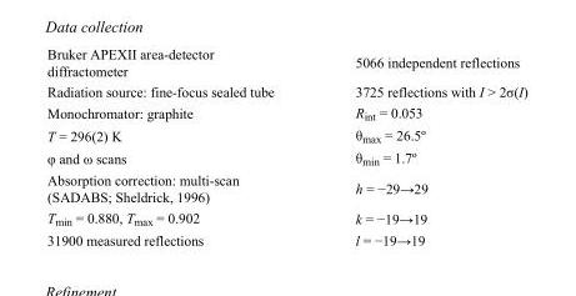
<table><tbody><tr><td>Bruker APEXII area-detector diffractometer</td><td>5066 independent reflections</td></tr><tr><td>Radiation source: fine-focus sealed tube</td><td>3725 reflections with I &gt; 2σ(I)</td></tr><tr><td>Monochromator: graphite</td><td>R<sub>int</sub> = 0.053</td></tr><tr><td>T = 296(2) K</td><td>θ<sub>max</sub> = 26.5º</td></tr><tr><td>φ and ω scans</td><td>θ<sub>min</sub> = 1.7º</td></tr><tr><td>Absorption correction: multi-scan (SADABS; Sheldrick, 1996)</td><td>h = −29→29</td></tr><tr><td>T<sub>min</sub> = 0.880, T<sub>max</sub> = 0.902</td><td>k = −19→19</td></tr><tr><td>31900 measured reflections</td><td>l = −19→19</td></tr></tbody></table>